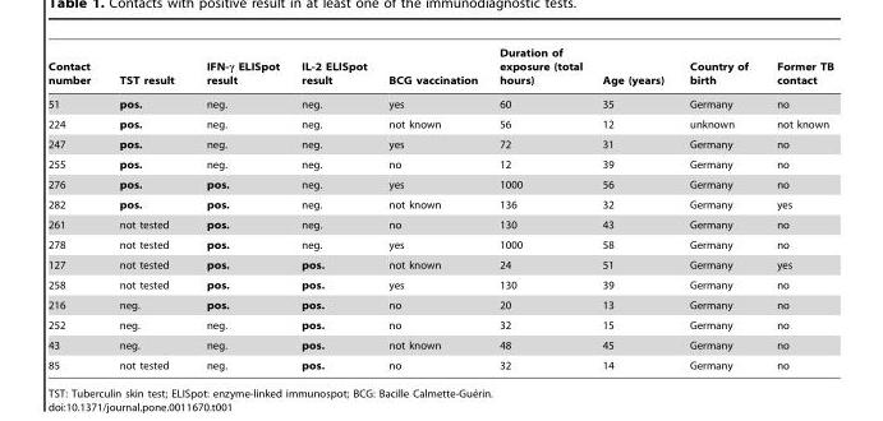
<table><thead><tr><td>Contact number</td><td>TST result</td><td>IFN-γ ELISpot result</td><td>IL-2 ELISpot result</td><td>BCG vaccination</td><td>Duration of exposure (total hours)</td><td>Age (years)</td><td>Country of birth</td><td>Former TB contact</td></tr></thead><tbody><tr><td>51</td><td>pos.</td><td>neg.</td><td>neg.</td><td>yes</td><td>60</td><td>35</td><td>Germany</td><td>no</td></tr><tr><td>224</td><td>pos.</td><td>neg.</td><td>neg.</td><td>not known</td><td>56</td><td>12</td><td>unknown</td><td>not known</td></tr><tr><td>247</td><td>pos.</td><td>neg.</td><td>neg.</td><td>yes</td><td>72</td><td>31</td><td>Germany</td><td>no</td></tr><tr><td>255</td><td>pos.</td><td>neg.</td><td>neg.</td><td>no</td><td>12</td><td>39</td><td>Germany</td><td>no</td></tr><tr><td>276</td><td>pos.</td><td>pos.</td><td>neg.</td><td>yes</td><td>1000</td><td>56</td><td>Germany</td><td>no</td></tr><tr><td>282</td><td>pos.</td><td>pos.</td><td>neg.</td><td>not known</td><td>136</td><td>32</td><td>Germany</td><td>yes</td></tr><tr><td>261</td><td>not tested</td><td>pos.</td><td>neg.</td><td>no</td><td>130</td><td>43</td><td>Germany</td><td>no</td></tr><tr><td>278</td><td>not tested</td><td>pos.</td><td>neg.</td><td>yes</td><td>1000</td><td>58</td><td>Germany</td><td>no</td></tr><tr><td>127</td><td>not tested</td><td>pos.</td><td>pos.</td><td>not known</td><td>24</td><td>51</td><td>Germany</td><td>yes</td></tr><tr><td>258</td><td>not tested</td><td>pos.</td><td>pos.</td><td>yes</td><td>130</td><td>39</td><td>Germany</td><td>no</td></tr><tr><td>216</td><td>neg.</td><td>pos.</td><td>pos.</td><td>no</td><td>20</td><td>13</td><td>Germany</td><td>no</td></tr><tr><td>252</td><td>neg.</td><td>neg.</td><td>pos.</td><td>no</td><td>32</td><td>15</td><td>Germany</td><td>no</td></tr><tr><td>43</td><td>neg.</td><td>neg.</td><td>pos.</td><td>not known</td><td>48</td><td>45</td><td>Germany</td><td>no</td></tr><tr><td>85</td><td>not tested</td><td>neg.</td><td>pos.</td><td>no</td><td>32</td><td>14</td><td>Germany</td><td>no</td></tr></tbody></table>